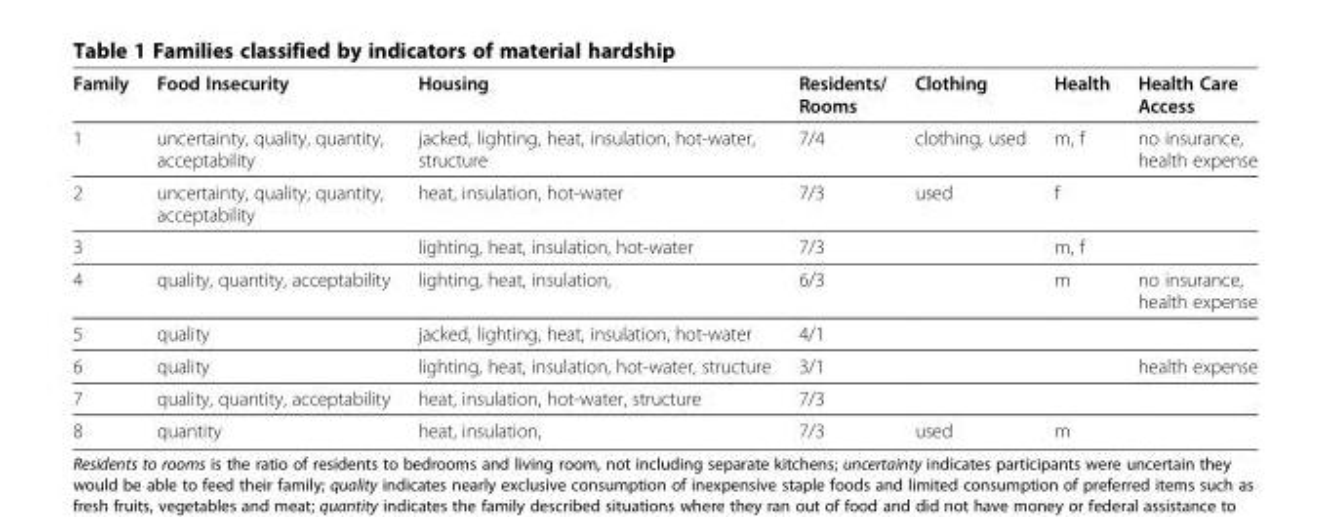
<table><thead><tr><td>Family</td><td>Food Insecurity</td><td>Housing</td><td>Residents/ Rooms</td><td>Clothing</td><td>Health</td><td>Health Care Access</td></tr></thead><tbody><tr><td>1</td><td>uncertainty, quality, quantity, acceptability</td><td>jacked, lighting, heat, insulation, hot-water, structure</td><td>7/4</td><td>clothing, used</td><td>m, f</td><td>no insurance, health expense</td></tr><tr><td>2</td><td>uncertainty, quality, quantity, acceptability</td><td>heat, insulation, hot-water</td><td>7/3</td><td>used</td><td>f</td><td></td></tr><tr><td>3</td><td></td><td>lighting, heat, insulation, hot-water</td><td>7/3</td><td></td><td>m, f</td><td></td></tr><tr><td>4</td><td>quality, quantity, acceptability</td><td>lighting, heat, insulation,</td><td>6/3</td><td></td><td>m</td><td>no insurance, health expense</td></tr><tr><td>5</td><td>quality</td><td>jacked, lighting, heat, insulation, hot-water</td><td>4/1</td><td></td><td></td><td></td></tr><tr><td>6</td><td>quality</td><td>lighting, heat, insulation, hot-water, structure</td><td>3/1</td><td></td><td></td><td>health expense</td></tr><tr><td>7</td><td>quality, quantity, acceptability</td><td>heat, insulation, hot-water, structure</td><td>7/3</td><td></td><td></td><td></td></tr><tr><td>8</td><td>quantity</td><td>heat, insulation,</td><td>7/3</td><td>used</td><td>m</td><td></td></tr></tbody></table>